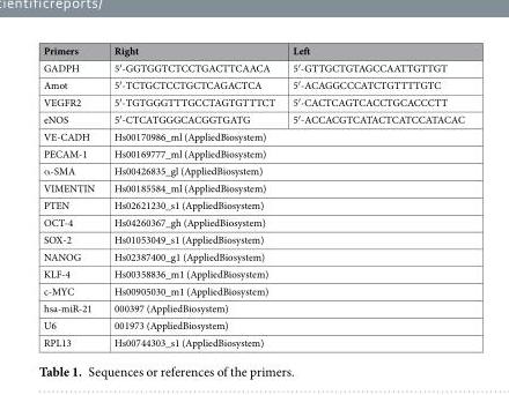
<table><thead><tr><td>Primers</td><td>Right</td><td>Left</td></tr></thead><tbody><tr><td>GADPH</td><td>5′-GGTGGTCTCCTGACTTCAACA</td><td>5′-GTTGCTGTAGCCAATTGTTGT</td></tr><tr><td>Amot</td><td>5′-TCTGCTCCTGCTCAGACTCA</td><td>5′-ACAGGCCCATCTGTTTTGTC</td></tr><tr><td>VEGFR2</td><td>5′-TGTGGGTTTGCCTAGTGTTTCT</td><td>5′-CACTCAGTCACCTGCACCCTT</td></tr><tr><td>eNOS</td><td>5′-CTCATGGGCACGGTGATG</td><td>5′-ACCACGTCATACTCATCCATACAC</td></tr><tr><td>VE-CADH</td><td colspan="2">Hs00170986_ml (AppliedBiosystem)</td></tr><tr><td>PECAM-1</td><td colspan="2">Hs00169777_ml (AppliedBiosystem)</td></tr><tr><td>α-SMA</td><td colspan="2">Hs00426835_gl (AppliedBiosystem)</td></tr><tr><td>VIMENTIN</td><td colspan="2">Hs00185584_ml (AppliedBiosystem)</td></tr><tr><td>PTEN</td><td colspan="2">Hs02621230_s1 (AppliedBiosystem)</td></tr><tr><td>OCT-4</td><td colspan="2">Hs04260367_gh (AppliedBiosystem)</td></tr><tr><td>SOX-2</td><td colspan="2">Hs01053049_s1 (AppliedBiosystem)</td></tr><tr><td>NANOG</td><td colspan="2">Hs02387400_g1 (AppliedBiosystem)</td></tr><tr><td>KLF-4</td><td colspan="2">Hs00358836_m1 (AppliedBiosystem)</td></tr><tr><td>c-MYC</td><td colspan="2">Hs00905030_m1 (AppliedBiosystem)</td></tr><tr><td>hsa-miR-21</td><td colspan="2">000397 (AppliedBiosystem)</td></tr><tr><td>U6</td><td colspan="2">001973 (AppliedBiosystem)</td></tr><tr><td>RPL13</td><td colspan="2">Hs00744303_s1 (AppliedBiosystem)</td></tr></tbody></table>